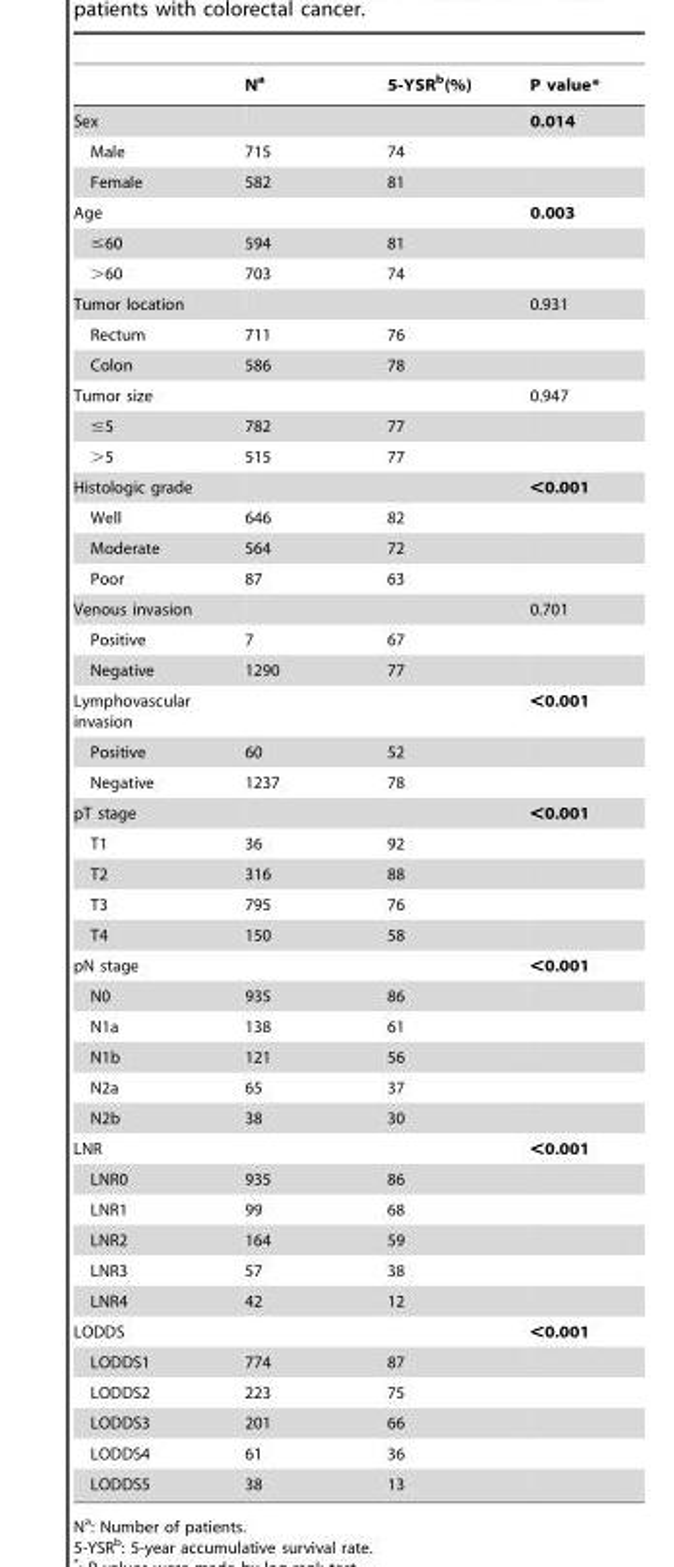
<table><thead><tr><td></td><td>N<sup>a</sup></td><td>5-YSR<sup>b</sup>(%)</td><td>P value*</td></tr></thead><tbody><tr><td>Sex</td><td></td><td></td><td>0.014</td></tr><tr><td>Male</td><td>715</td><td>74</td><td></td></tr><tr><td>Female</td><td>582</td><td>81</td><td></td></tr><tr><td>Age</td><td></td><td></td><td>0.003</td></tr><tr><td>≤60</td><td>594</td><td>81</td><td></td></tr><tr><td>&gt;60</td><td>703</td><td>74</td><td></td></tr><tr><td>Tumor location</td><td></td><td></td><td>0.931</td></tr><tr><td>Rectum</td><td>711</td><td>76</td><td></td></tr><tr><td>Colon</td><td>586</td><td>78</td><td></td></tr><tr><td>Tumor size</td><td></td><td></td><td>0.947</td></tr><tr><td>≤5</td><td>782</td><td>77</td><td></td></tr><tr><td>&gt;5</td><td>515</td><td>77</td><td></td></tr><tr><td>Histologic grade</td><td></td><td></td><td>&lt;0.001</td></tr><tr><td>Well</td><td>646</td><td>82</td><td></td></tr><tr><td>Moderate</td><td>564</td><td>72</td><td></td></tr><tr><td>Poor</td><td>87</td><td>63</td><td></td></tr><tr><td>Venous invasion</td><td></td><td></td><td>0.701</td></tr><tr><td>Positive</td><td>7</td><td>67</td><td></td></tr><tr><td>Negative</td><td>1290</td><td>77</td><td></td></tr><tr><td>Lymphovascular invasion</td><td></td><td></td><td>&lt;0.001</td></tr><tr><td>Positive</td><td>60</td><td>52</td><td></td></tr><tr><td>Negative</td><td>1237</td><td>78</td><td></td></tr><tr><td>pT stage</td><td></td><td></td><td>&lt;0.001</td></tr><tr><td>T1</td><td>36</td><td>92</td><td></td></tr><tr><td>T2</td><td>316</td><td>88</td><td></td></tr><tr><td>T3</td><td>795</td><td>76</td><td></td></tr><tr><td>T4</td><td>150</td><td>58</td><td></td></tr><tr><td>pN stage</td><td></td><td></td><td>&lt;0.001</td></tr><tr><td>N0</td><td>935</td><td>86</td><td></td></tr><tr><td>N1a</td><td>138</td><td>61</td><td></td></tr><tr><td>N1b</td><td>121</td><td>56</td><td></td></tr><tr><td>N2a</td><td>65</td><td>37</td><td></td></tr><tr><td>N2b</td><td>38</td><td>30</td><td></td></tr><tr><td>LNR</td><td></td><td></td><td>&lt;0.001</td></tr><tr><td>LNR0</td><td>935</td><td>86</td><td></td></tr><tr><td>LNR1</td><td>99</td><td>68</td><td></td></tr><tr><td>LNR2</td><td>164</td><td>59</td><td></td></tr><tr><td>LNR3</td><td>57</td><td>38</td><td></td></tr><tr><td>LNR4</td><td>42</td><td>12</td><td></td></tr><tr><td>LODDS</td><td></td><td></td><td>&lt;0.001</td></tr><tr><td>LODDS1</td><td>774</td><td>87</td><td></td></tr><tr><td>LODDS2</td><td>223</td><td>75</td><td></td></tr><tr><td>LODDS3</td><td>201</td><td>66</td><td></td></tr><tr><td>LODDS4</td><td>61</td><td>36</td><td></td></tr><tr><td>LODDS5</td><td>38</td><td>13</td><td></td></tr></tbody></table>